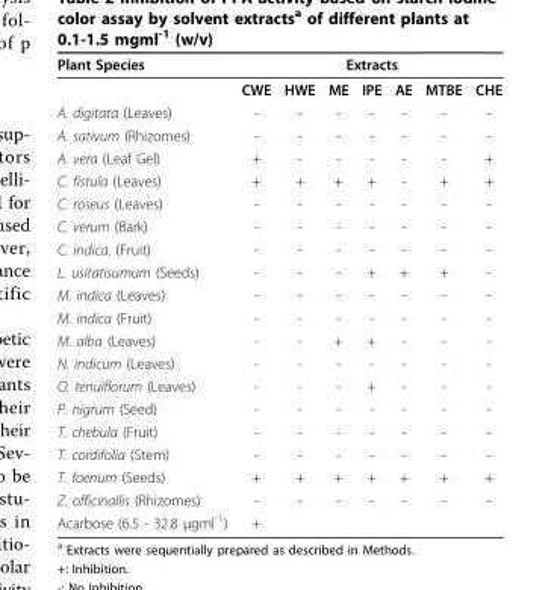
<table><thead><tr><td rowspan="2">Plant Species</td><td colspan="7">Extracts</td></tr><tr><td>CWE</td><td>HWE</td><td>ME</td><td>IPE</td><td>AE</td><td>MTBE</td><td>CHE</td></tr></thead><tbody><tr><td>A. digitata (Leaves)</td><td>-</td><td>-</td><td>-</td><td>-</td><td>-</td><td>-</td><td>-</td></tr><tr><td>A. sativum (Rhizomes)</td><td>-</td><td>-</td><td>-</td><td>-</td><td>-</td><td>-</td><td>-</td></tr><tr><td>A. vera (Leaf Gel)</td><td>+</td><td>-</td><td>-</td><td>-</td><td>-</td><td>-</td><td>+</td></tr><tr><td>C. fistula (Leaves)</td><td>+</td><td>+</td><td>+</td><td>+</td><td>-</td><td>+</td><td>+</td></tr><tr><td>C. roseus (Leaves)</td><td>-</td><td>-</td><td>-</td><td>-</td><td>-</td><td>-</td><td>-</td></tr><tr><td>C. verum (Bark)</td><td>-</td><td>-</td><td>-</td><td>-</td><td>-</td><td>-</td><td>-</td></tr><tr><td>C. indica. (Fruit)</td><td>-</td><td>-</td><td>-</td><td>-</td><td>-</td><td>-</td><td>-</td></tr><tr><td>L. usitatisumum (Seeds)</td><td>-</td><td>-</td><td>-</td><td>+</td><td>+</td><td>+</td><td>-</td></tr><tr><td>M. indica (Leaves)</td><td>-</td><td>-</td><td>-</td><td>-</td><td>-</td><td>-</td><td>-</td></tr><tr><td>M. indica (Fruit)</td><td>-</td><td>-</td><td>-</td><td>-</td><td>-</td><td>-</td><td>-</td></tr><tr><td>M. alba (Leaves)</td><td>-</td><td>-</td><td>+</td><td>+</td><td>-</td><td>-</td><td>-</td></tr><tr><td>N. indicum (Leaves)</td><td>-</td><td>-</td><td>-</td><td>-</td><td>-</td><td>-</td><td>-</td></tr><tr><td>O. tenuiflorum (Leaves)</td><td>-</td><td>-</td><td>-</td><td>+</td><td>-</td><td>-</td><td>-</td></tr><tr><td>P. nigrum (Seed)</td><td>-</td><td>-</td><td>-</td><td>-</td><td>-</td><td>-</td><td>-</td></tr><tr><td>T. chebula (Fruit)</td><td>-</td><td>-</td><td>-</td><td>-</td><td>-</td><td>-</td><td>-</td></tr><tr><td>T. cordifolia (Stem)</td><td>-</td><td>-</td><td>-</td><td>-</td><td>-</td><td>-</td><td>-</td></tr><tr><td>T. foenum (Seeds)</td><td>+</td><td>+</td><td>+</td><td>+</td><td>+</td><td>+</td><td>+</td></tr><tr><td>Z. officinallis (Rhizomes)</td><td>-</td><td>-</td><td>-</td><td>-</td><td>-</td><td>-</td><td>-</td></tr><tr><td>Acarbose (6.5 - 32.8 μgml<sup>-1</sup>)</td><td>+</td><td></td><td></td><td></td><td></td><td></td><td></td></tr></tbody></table>